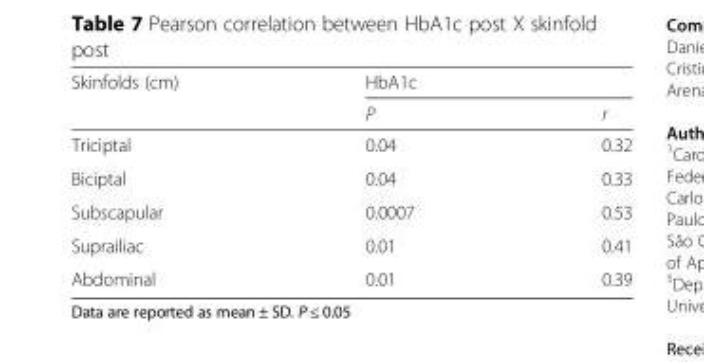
<table><thead><tr><td rowspan="2">Skinfolds (cm)</td><td colspan="2">HbA1c</td></tr><tr><td>P</td><td>r</td></tr></thead><tbody><tr><td>Triciptal</td><td>0.04</td><td>0.32</td></tr><tr><td>Biciptal</td><td>0.04</td><td>0.33</td></tr><tr><td>Subscapular</td><td>0.0007</td><td>0.53</td></tr><tr><td>Suprailiac</td><td>0.01</td><td>0.41</td></tr><tr><td>Abdominal</td><td>0.01</td><td>0.39</td></tr></tbody></table>